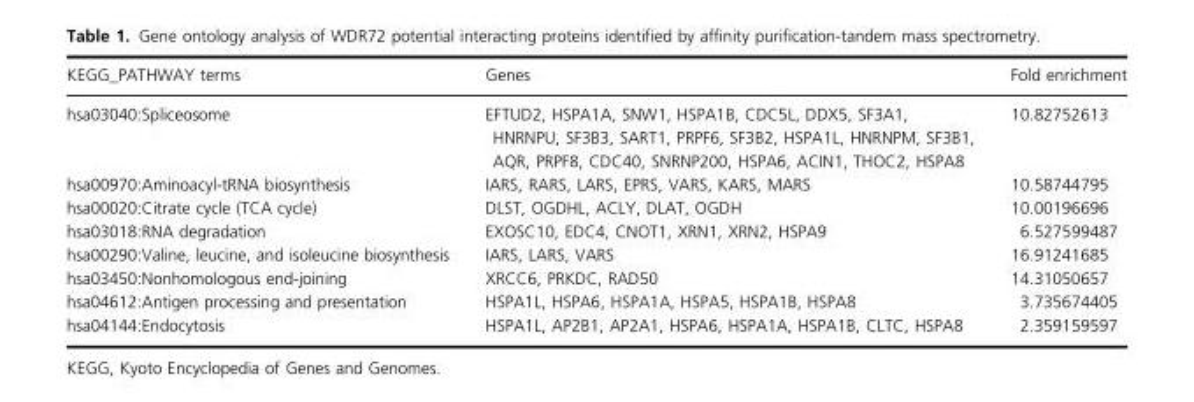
<table><thead><tr><td>KEGG_PATHWAY terms</td><td>Genes</td><td>Fold enrichment</td></tr></thead><tbody><tr><td>hsa03040:Spliceosome</td><td>EFTUD2, HSPA1A, SNW1, HSPA1B, CDC5L, DDX5, SF3A1, HNRNPU, SF3B3, SART1, PRPF6, SF3B2, HSPA1L, HNRNPM, SF3B1, AQR, PRPF8, CDC40, SNRNP200, HSPA6, ACIN1, THOC2, HSPA8</td><td>10.82752613</td></tr><tr><td>hsa00970:Aminoacyl-tRNA biosynthesis</td><td>IARS, RARS, LARS, EPRS, VARS, KARS, MARS</td><td>10.58744795</td></tr><tr><td>hsa00020:Citrate cycle (TCA cycle)</td><td>DLST, OGDHL, ACLY, DLAT, OGDH</td><td>10.00196696</td></tr><tr><td>hsa03018:RNA degradation</td><td>EXOSC10, EDC4, CNOT1, XRN1, XRN2, HSPA9</td><td>6.527599487</td></tr><tr><td>hsa00290:Valine, leucine, and isoleucine biosynthesis</td><td>IARS, LARS, VARS</td><td>16.91241685</td></tr><tr><td>hsa03450:Nonhomologous end-joining</td><td>XRCC6, PRKDC, RAD50</td><td>14.31050657</td></tr><tr><td>hsa04612:Antigen processing and presentation</td><td>HSPA1L, HSPA6, HSPA1A, HSPA5, HSPA1B, HSPA8</td><td>3.735674405</td></tr><tr><td>hsa04144:Endocytosis</td><td>HSPA1L, AP2B1, AP2A1, HSPA6, HSPA1A, HSPA1B, CLTC, HSPA8</td><td>2.359159597</td></tr></tbody></table>